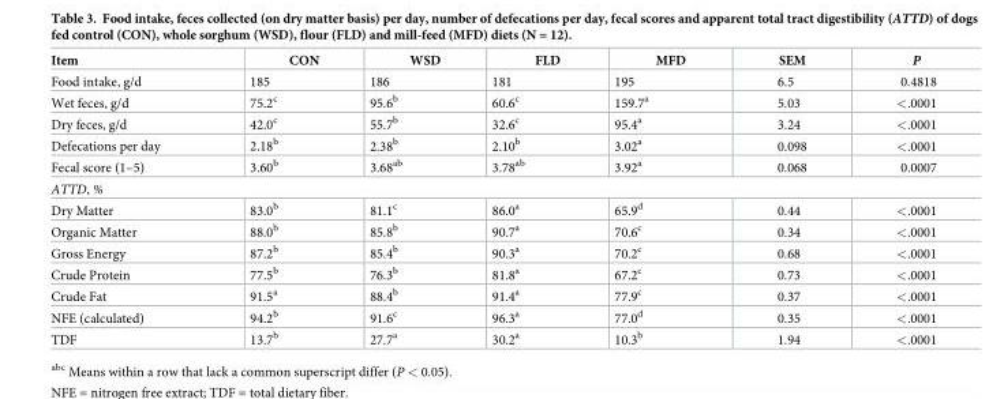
<table><thead><tr><td>Item</td><td>CON</td><td>WSD</td><td>FLD</td><td>MFD</td><td>SEM</td><td>P</td></tr></thead><tbody><tr><td>Food intake, g/d</td><td>185</td><td>186</td><td>181</td><td>195</td><td>6.5</td><td>0.4818</td></tr><tr><td>Wet feces, g/d</td><td>75.2<sup>c</sup></td><td>95.6<sup>b</sup></td><td>60.6<sup>c</sup></td><td>159.7<sup>a</sup></td><td>5.03</td><td>&lt;.0001</td></tr><tr><td>Dry feces, g/d</td><td>42.0<sup>c</sup></td><td>55.7<sup>b</sup></td><td>32.6<sup>c</sup></td><td>95.4<sup>a</sup></td><td>3.24</td><td>&lt;.0001</td></tr><tr><td>Defecations per day</td><td>2.18<sup>b</sup></td><td>2.38<sup>b</sup></td><td>2.10<sup>b</sup></td><td>3.02<sup>a</sup></td><td>0.098</td><td>&lt;.0001</td></tr><tr><td>Fecal score (1–5)</td><td>3.60<sup>b</sup></td><td>3.68<sup>ab</sup></td><td>3.78<sup>ab</sup></td><td>3.92<sup>a</sup></td><td>0.068</td><td>0.0007</td></tr><tr><td colspan="7">ATTD, %</td></tr><tr><td>Dry Matter</td><td>83.0<sup>b</sup></td><td>81.1<sup>c</sup></td><td>86.0<sup>a</sup></td><td>65.9<sup>d</sup></td><td>0.44</td><td>&lt;.0001</td></tr><tr><td>Organic Matter</td><td>88.0<sup>b</sup></td><td>85.8<sup>b</sup></td><td>90.7<sup>a</sup></td><td>70.6<sup>c</sup></td><td>0.34</td><td>&lt;.0001</td></tr><tr><td>Gross Energy</td><td>87.2<sup>b</sup></td><td>85.4<sup>b</sup></td><td>90.3<sup>a</sup></td><td>70.2<sup>c</sup></td><td>0.68</td><td>&lt;.0001</td></tr><tr><td>Crude Protein</td><td>77.5<sup>b</sup></td><td>76.3<sup>b</sup></td><td>81.8<sup>a</sup></td><td>67.2<sup>c</sup></td><td>0.73</td><td>&lt;.0001</td></tr><tr><td>Crude Fat</td><td>91.5<sup>a</sup></td><td>88.4<sup>b</sup></td><td>91.4<sup>a</sup></td><td>77.9<sup>c</sup></td><td>0.37</td><td>&lt;.0001</td></tr><tr><td>NFE (calculated)</td><td>94.2<sup>b</sup></td><td>91.6<sup>c</sup></td><td>96.3<sup>a</sup></td><td>77.0<sup>d</sup></td><td>0.35</td><td>&lt;.0001</td></tr><tr><td>TDF</td><td>13.7<sup>b</sup></td><td>27.7<sup>a</sup></td><td>30.2<sup>a</sup></td><td>10.3<sup>b</sup></td><td>1.94</td><td>&lt;.0001</td></tr></tbody></table>